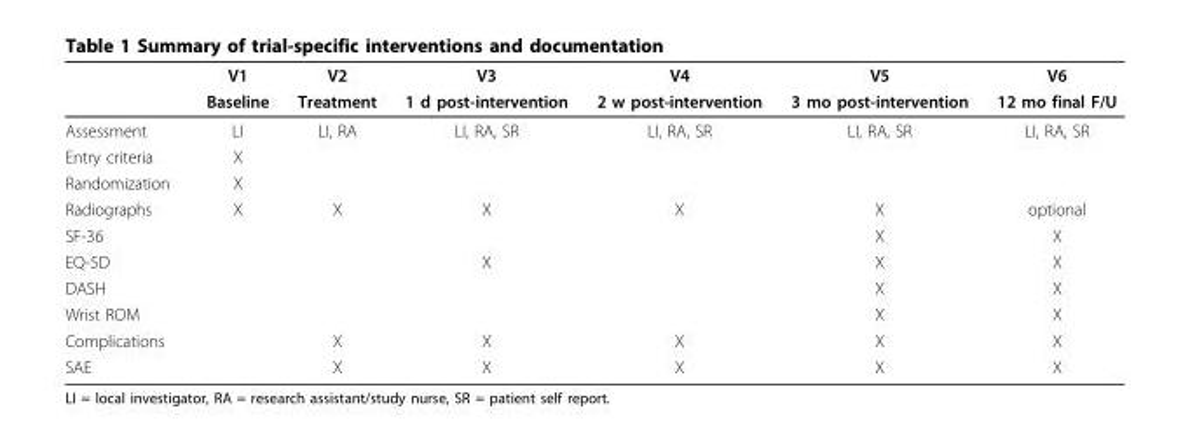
<table><thead><tr><td rowspan="2"></td><td rowspan="2">V1 Baseline</td><td rowspan="2">V2 Treatment</td><td rowspan="2">V3 1 d post-intervention</td><td rowspan="2">V4 2 w post-intervention</td><td rowspan="2">V5 3 mo post-intervention</td><td rowspan="2">V6 12 mo final F/U</td></tr><tr></tr></thead><tbody><tr><td>Assessment</td><td>LI</td><td>LI, RA</td><td>LI, RA, SR</td><td>LI, RA, SR</td><td>LI, RA, SR</td><td>LI, RA, SR</td></tr><tr><td>Entry criteria</td><td>X</td><td></td><td></td><td></td><td></td><td></td></tr><tr><td>Randomization</td><td>X</td><td></td><td></td><td></td><td></td><td></td></tr><tr><td>Radiographs</td><td>X</td><td>X</td><td>X</td><td>X</td><td>X</td><td>optional</td></tr><tr><td>SF-36</td><td></td><td></td><td></td><td></td><td>X</td><td>X</td></tr><tr><td>EQ-5D</td><td></td><td></td><td>X</td><td></td><td>X</td><td>X</td></tr><tr><td>DASH</td><td></td><td></td><td></td><td></td><td>X</td><td>X</td></tr><tr><td>Wrist ROM</td><td></td><td></td><td></td><td></td><td>X</td><td>X</td></tr><tr><td>Complications</td><td></td><td>X</td><td>X</td><td>X</td><td>X</td><td>X</td></tr><tr><td>SAE</td><td></td><td>X</td><td>X</td><td>X</td><td>X</td><td>X</td></tr></tbody></table>